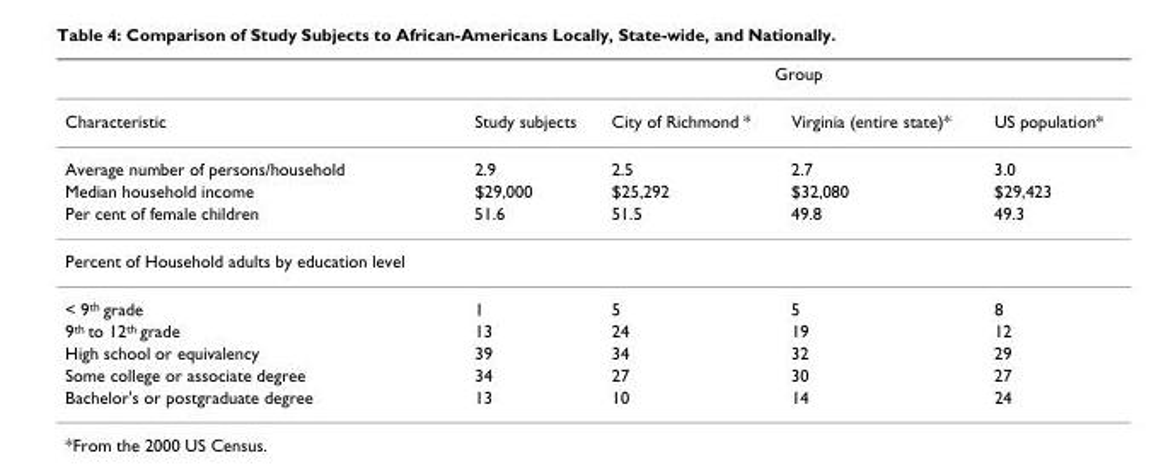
<table><thead><tr><td rowspan="2">Characteristic</td><td colspan="4">Group</td></tr><tr><td>Study subjects</td><td>City of Richmond *</td><td>Virginia (entire state)*</td><td>US population*</td></tr></thead><tbody><tr><td>Average number of persons/household</td><td>2.9</td><td>2.5</td><td>2.7</td><td>3.0</td></tr><tr><td>Median household income</td><td>$29,000</td><td>$25,292</td><td>$32,080</td><td>$29,423</td></tr><tr><td>Per cent of female children</td><td>51.6</td><td>51.5</td><td>49.8</td><td>49.3</td></tr><tr><td colspan="5">Percent of Household adults by education level</td></tr><tr><td>&lt; 9<sup>th</sup> grade</td><td>1</td><td>5</td><td>5</td><td>8</td></tr><tr><td>9<sup>th</sup> to 12<sup>th</sup> grade</td><td>13</td><td>24</td><td>19</td><td>12</td></tr><tr><td>High school or equivalency</td><td>39</td><td>34</td><td>32</td><td>29</td></tr><tr><td>Some college or associate degree</td><td>34</td><td>27</td><td>30</td><td>27</td></tr><tr><td>Bachelor&#x27;s or postgraduate degree</td><td>13</td><td>10</td><td>14</td><td>24</td></tr></tbody></table>